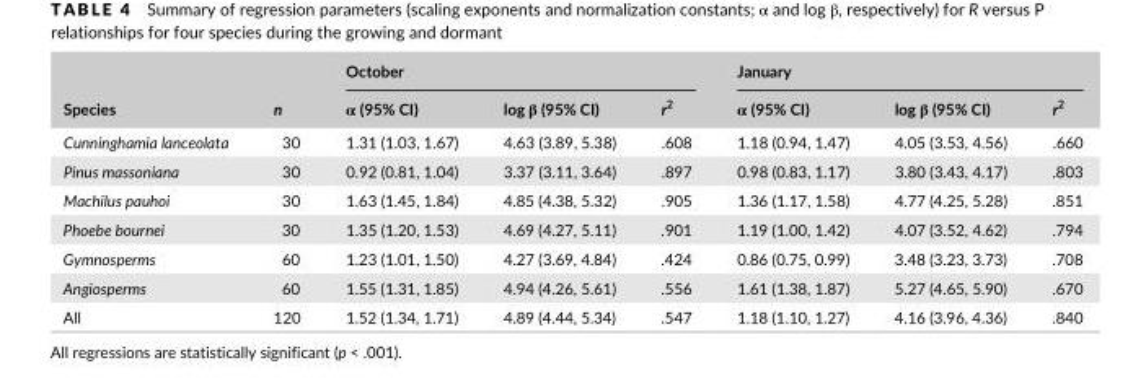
<table><thead><tr><td rowspan="2">Species</td><td rowspan="2">n</td><td colspan="3">October</td><td colspan="3">January</td></tr><tr><td>α (95% CI)</td><td>log β (95% CI)</td><td>r<sup>2</sup></td><td>α (95% CI)</td><td>log β (95% CI)</td><td>r<sup>2</sup></td></tr></thead><tbody><tr><td>Cunninghamia lanceolata</td><td>30</td><td>1.31 (1.03, 1.67)</td><td>4.63 (3.89, 5.38)</td><td>.608</td><td>1.18 (0.94, 1.47)</td><td>4.05 (3.53, 4.56)</td><td>.660</td></tr><tr><td>Pinus massoniana</td><td>30</td><td>0.92 (0.81, 1.04)</td><td>3.37 (3.11, 3.64)</td><td>.897</td><td>0.98 (0.83, 1.17)</td><td>3.80 (3.43, 4.17)</td><td>.803</td></tr><tr><td>Machilus pauhoi</td><td>30</td><td>1.63 (1.45, 1.84)</td><td>4.85 (4.38, 5.32)</td><td>.905</td><td>1.36 (1.17, 1.58)</td><td>4.77 (4.25, 5.28)</td><td>.851</td></tr><tr><td>Phoebe bournei</td><td>30</td><td>1.35 (1.20, 1.53)</td><td>4.69 (4.27, 5.11)</td><td>.901</td><td>1.19 (1.00, 1.42)</td><td>4.07 (3.52, 4.62)</td><td>.794</td></tr><tr><td>Gymnosperms</td><td>60</td><td>1.23 (1.01, 1.50)</td><td>4.27 (3.69, 4.84)</td><td>.424</td><td>0.86 (0.75, 0.99)</td><td>3.48 (3.23, 3.73)</td><td>.708</td></tr><tr><td>Angiosperms</td><td>60</td><td>1.55 (1.31, 1.85)</td><td>4.94 (4.26, 5.61)</td><td>.556</td><td>1.61 (1.38, 1.87)</td><td>5.27 (4.65, 5.90)</td><td>.670</td></tr><tr><td>All</td><td>120</td><td>1.52 (1.34, 1.71)</td><td>4.89 (4.44, 5.34)</td><td>.547</td><td>1.18 (1.10, 1.27)</td><td>4.16 (3.96, 4.36)</td><td>.840</td></tr></tbody></table>